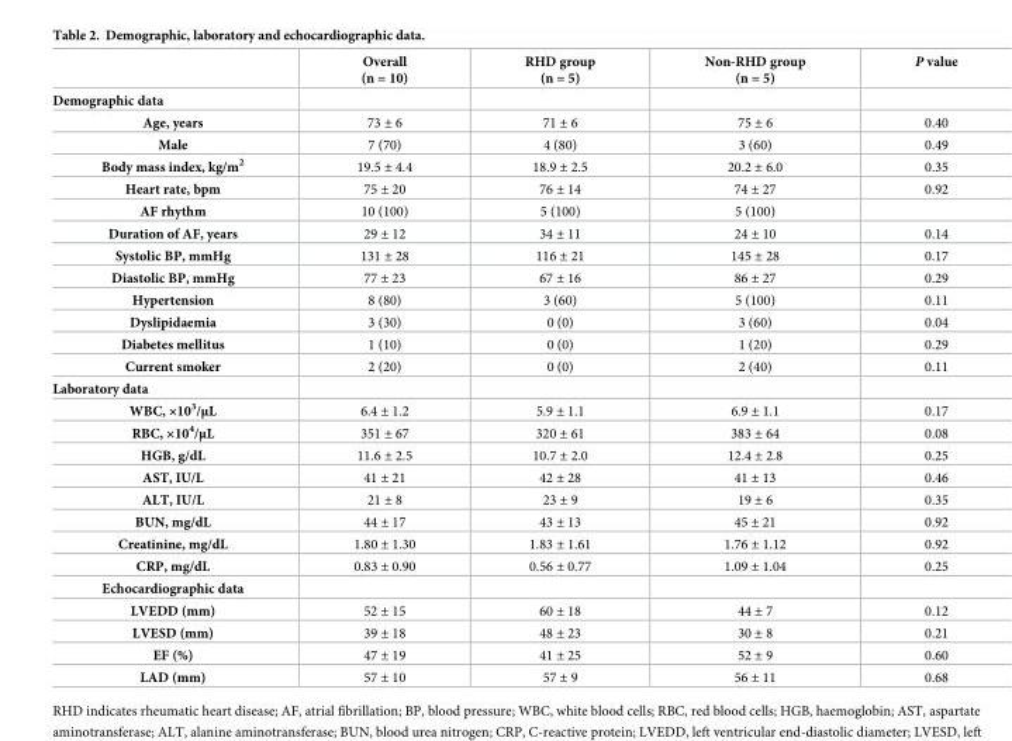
<table><thead><tr><td></td><td>Overall (n = 10)</td><td>RHD group (n = 5)</td><td>Non-RHD group (n = 5)</td><td>P value</td></tr></thead><tbody><tr><td colspan="5">Demographic data</td></tr><tr><td>Age, years</td><td>73 ± 6</td><td>71 ± 6</td><td>75 ± 6</td><td>0.40</td></tr><tr><td>Male</td><td>7 (70)</td><td>4 (80)</td><td>3 (60)</td><td>0.49</td></tr><tr><td>Body mass index, kg/m<sup>2</sup></td><td>19.5 ± 4.4</td><td>18.9 ± 2.5</td><td>20.2 ± 6.0</td><td>0.35</td></tr><tr><td>Heart rate, bpm</td><td>75 ± 20</td><td>76 ± 14</td><td>74 ± 27</td><td>0.92</td></tr><tr><td>AF rhythm</td><td>10 (100)</td><td>5 (100)</td><td>5 (100)</td><td></td></tr><tr><td>Duration of AF, years</td><td>29 ± 12</td><td>34 ± 11</td><td>24 ± 10</td><td>0.14</td></tr><tr><td>Systolic BP, mmHg</td><td>131 ± 28</td><td>116 ± 21</td><td>145 ± 28</td><td>0.17</td></tr><tr><td>Diastolic BP, mmHg</td><td>77 ± 23</td><td>67 ± 16</td><td>86 ± 27</td><td>0.29</td></tr><tr><td>Hypertension</td><td>8 (80)</td><td>3 (60)</td><td>5 (100)</td><td>0.11</td></tr><tr><td>Dyslipidaemia</td><td>3 (30)</td><td>0 (0)</td><td>3 (60)</td><td>0.04</td></tr><tr><td>Diabetes mellitus</td><td>1 (10)</td><td>0 (0)</td><td>1 (20)</td><td>0.29</td></tr><tr><td>Current smoker</td><td>2 (20)</td><td>0 (0)</td><td>2 (40)</td><td>0.11</td></tr><tr><td colspan="5">Laboratory data</td></tr><tr><td>WBC, ×10<sup>3</sup>/μL</td><td>6.4 ± 1.2</td><td>5.9 ± 1.1</td><td>6.9 ± 1.1</td><td>0.17</td></tr><tr><td>RBC, ×10<sup>4</sup>/μL</td><td>351 ± 67</td><td>320 ± 61</td><td>383 ± 64</td><td>0.08</td></tr><tr><td>HGB, g/dL</td><td>11.6 ± 2.5</td><td>10.7 ± 2.0</td><td>12.4 ± 2.8</td><td>0.25</td></tr><tr><td>AST, IU/L</td><td>41 ± 21</td><td>42 ± 28</td><td>41 ± 13</td><td>0.46</td></tr><tr><td>ALT, IU/L</td><td>21 ± 8</td><td>23 ± 9</td><td>19 ± 6</td><td>0.35</td></tr><tr><td>BUN, mg/dL</td><td>44 ± 17</td><td>43 ± 13</td><td>45 ± 21</td><td>0.92</td></tr><tr><td>Creatinine, mg/dL</td><td>1.80 ± 1.30</td><td>1.83 ± 1.61</td><td>1.76 ± 1.12</td><td>0.92</td></tr><tr><td>CRP, mg/dL</td><td>0.83 ± 0.90</td><td>0.56 ± 0.77</td><td>1.09 ± 1.04</td><td>0.25</td></tr><tr><td colspan="5">Echocardiographic data</td></tr><tr><td>LVEDD (mm)</td><td>52 ± 15</td><td>60 ± 18</td><td>44 ± 7</td><td>0.12</td></tr><tr><td>LVESD (mm)</td><td>39 ± 18</td><td>48 ± 23</td><td>30 ± 8</td><td>0.21</td></tr><tr><td>EF (%)</td><td>47 ± 19</td><td>41 ± 25</td><td>52 ± 9</td><td>0.60</td></tr><tr><td>LAD (mm)</td><td>57 ± 10</td><td>57 ± 9</td><td>56 ± 11</td><td>0.68</td></tr></tbody></table>